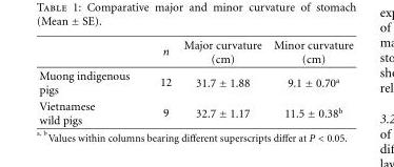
<table><thead><tr><td></td><td>n</td><td>Major curvature (cm)</td><td>Minor curvature (cm)</td></tr></thead><tbody><tr><td>Muong indigenous pigs</td><td>12</td><td>31.7 ± 1.88</td><td>9.1 ± 0.70<sup>a</sup></td></tr><tr><td>Vietnamese wild pigs</td><td>9</td><td>32.7 ± 1.17</td><td>11.5 ± 0.38<sup>b</sup></td></tr></tbody></table>